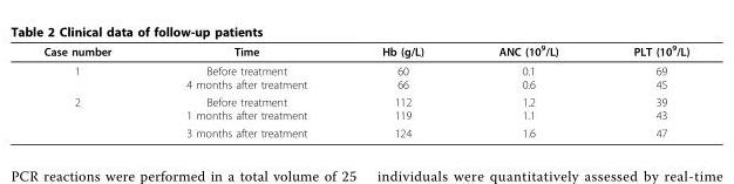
<table><thead><tr><td>Case number</td><td>Time</td><td>Hb (g/L)</td><td>ANC (10<sup>9</sup>/L)</td><td>PLT (10<sup>9</sup>/L)</td></tr></thead><tbody><tr><td>1</td><td>Before treatment 4 months after treatment</td><td>60 66</td><td>0.1 0.6</td><td>69 45</td></tr><tr><td rowspan="2">2</td><td>Before treatment 1 months after treatment</td><td>112 119</td><td>1.2 1.1</td><td>39 43</td></tr><tr><td>3 months after treatment</td><td>124</td><td>1.6</td><td>47</td></tr></tbody></table>